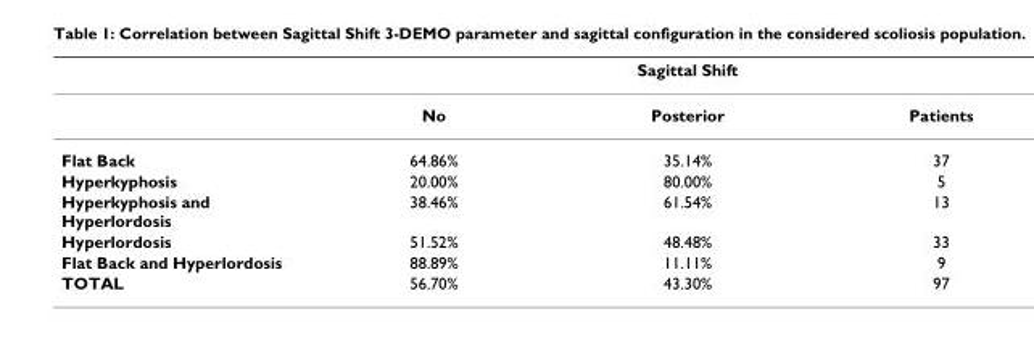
<table><thead><tr><td rowspan="2"></td><td colspan="3">Sagittal Shift</td></tr><tr><td>No</td><td>Posterior</td><td>Patients</td></tr></thead><tbody><tr><td>Flat Back</td><td>64.86%</td><td>35.14%</td><td>37</td></tr><tr><td>Hyperkyphosis</td><td>20.00%</td><td>80.00%</td><td>5</td></tr><tr><td>Hyperkyphosis and Hyperlordosis</td><td>38.46%</td><td>61.54%</td><td>13</td></tr><tr><td>Hyperlordosis</td><td>51.52%</td><td>48.48%</td><td>33</td></tr><tr><td>Flat Back and Hyperlordosis</td><td>88.89%</td><td>11.11%</td><td>9</td></tr><tr><td>TOTAL</td><td>56.70%</td><td>43.30%</td><td>97</td></tr></tbody></table>